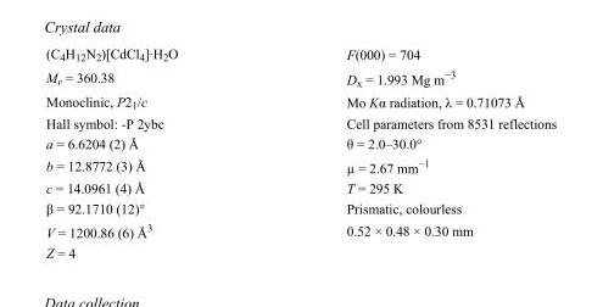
<table><tbody><tr><td>(C<sub>4</sub>H<sub>12</sub>N<sub>2</sub>)[CdCl<sub>4</sub>]·H<sub>2</sub>O</td><td>F(000) = 704</td></tr><tr><td>M<sub>r</sub> = 360.38</td><td>D<sub>x</sub> = 1.993 Mg m<sup>−3</sup></td></tr><tr><td>Monoclinic, P2<sub>1</sub>/c</td><td>Mo Kα radiation, λ = 0.71073 Å</td></tr><tr><td>Hall symbol: -P 2ybc</td><td>Cell parameters from 8531 reflections</td></tr><tr><td>a = 6.6204 (2) Å</td><td>θ = 2.0–30.0°</td></tr><tr><td>b = 12.8772 (3) Å</td><td>µ = 2.67 mm<sup>−1</sup></td></tr><tr><td>c = 14.0961 (4) Å</td><td>T = 295 K</td></tr><tr><td>β = 92.1710 (12)°</td><td>Prismatic, colourless</td></tr><tr><td>V = 1200.86 (6) Å<sup>3</sup></td><td>0.52 × 0.48 × 0.30 mm</td></tr><tr><td>Z = 4</td><td></td></tr></tbody></table>